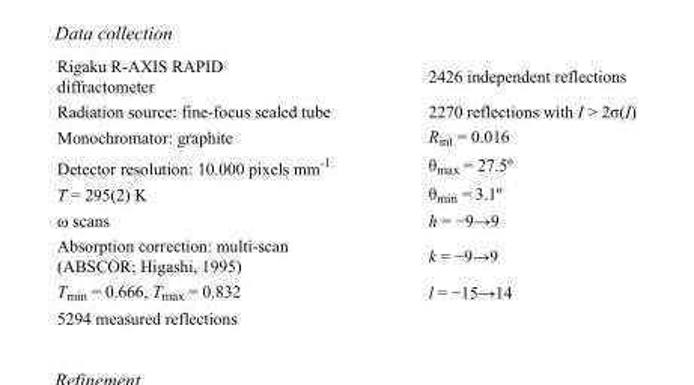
<table><tbody><tr><td>Rigaku R-AXIS RAPID diffractometer</td><td>2426 independent reflections</td></tr><tr><td>Radiation source: fine-focus sealed tube</td><td>2270 reflections with I &gt; 2σ(I)</td></tr><tr><td>Monochromator: graphite</td><td>R<sub>int</sub> = 0.016</td></tr><tr><td>Detector resolution: 10.000 pixels mm<sup>-1</sup></td><td>θ<sub>max</sub> = 27.5º</td></tr><tr><td>T = 295(2) K</td><td>θ<sub>min</sub> = 3.1º</td></tr><tr><td>ω scans</td><td>h = −9→9</td></tr><tr><td>Absorption correction: multi-scan (ABSCOR; Higashi, 1995)</td><td>k = −9→9</td></tr><tr><td>T<sub>min</sub> = 0.666, T<sub>max</sub> = 0.832</td><td>l = −15→14</td></tr><tr><td>5294 measured reflections</td><td></td></tr></tbody></table>